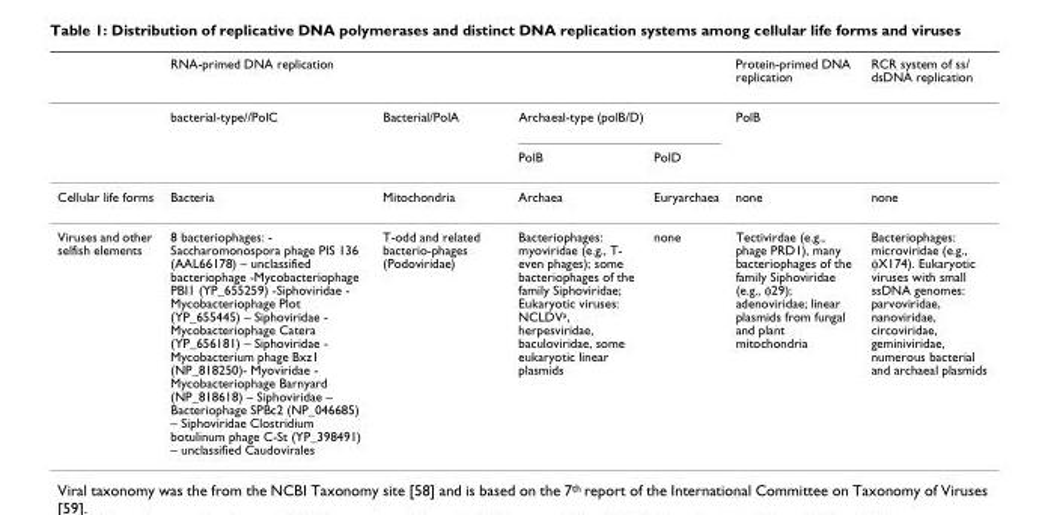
<table><thead><tr><td rowspan="3"></td><td colspan="4">RNA-primed DNA replication</td><td rowspan="3">Protein-primed DNA replication PolB</td><td rowspan="3">RCR system of ss/ dsDNA replication</td></tr><tr><td rowspan="2">bacterial-type//PolC</td><td rowspan="2">Bacterial/PolA</td><td colspan="2">Archaeal-type (polB/D)</td></tr><tr><td>PolB</td><td>PolD</td></tr></thead><tbody><tr><td>Cellular life forms</td><td>Bacteria</td><td>Mitochondria</td><td>Archaea</td><td>Euryarchaea</td><td>none</td><td>none</td></tr><tr><td>Viruses and other selfish elements</td><td>8 bacteriophages: - Saccharomonospora phage PIS 136 (AAL66178) – unclassified bacteriophage -Mycobacteriophage PBI1 (YP_655259) -Siphoviridae - Mycobacteriophage Plot (YP_655445) – Siphoviridae - Mycobacteriophage Catera (YP_656181) – Siphoviridae - Mycobacterium phage Bxz1 (NP_818250)- Myoviridae - Mycobacteriophage Barnyard (NP_818618) – Siphoviridae – Bacteriophage SPBc2 (NP_046685) – Siphoviridae Clostridium botulinum phage C-St (YP_398491) – unclassified Caudovirales</td><td>T-odd and related bacterio-phages (Podoviridae)</td><td>Bacteriophages: myoviridae (e.g., T- even phages); some bacteriophages of the family Siphoviridae; Eukaryotic viruses: NCLDV<sup>a</sup>, herpesviridae, baculoviridae, some eukaryotic linear plasmids</td><td>none</td><td>Tectivirdae (e.g., phage PRD1), many bacteriophages of the family Siphoviridae (e.g., φ29); adenoviridae; linear plasmids from fungal and plant mitochondria</td><td>Bacteriophages: microviridae (e.g., φX174). Eukaryotic viruses with small ssDNA genomes: parvoviridae, nanoviridae, circoviridae, geminiviridae, numerous bacterial and archaeal plasmids</td></tr></tbody></table>